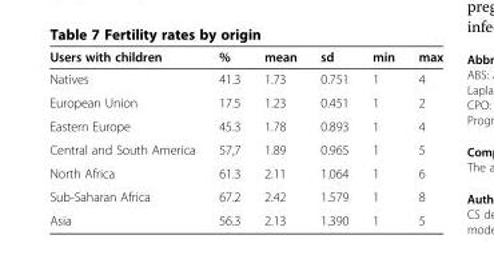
<table><thead><tr><td>Users with children</td><td>%</td><td>mean</td><td>sd</td><td>min</td><td>max</td></tr></thead><tbody><tr><td>Natives</td><td>41.3</td><td>1.73</td><td>0.751</td><td>1</td><td>4</td></tr><tr><td>European Union</td><td>17.5</td><td>1.23</td><td>0.451</td><td>1</td><td>2</td></tr><tr><td>Eastern Europe</td><td>45.3</td><td>1.78</td><td>0.893</td><td>1</td><td>4</td></tr><tr><td>Central and South America</td><td>57,7</td><td>1.89</td><td>0.965</td><td>1</td><td>5</td></tr><tr><td>North Africa</td><td>61.3</td><td>2.11</td><td>1.064</td><td>1</td><td>6</td></tr><tr><td>Sub-Saharan Africa</td><td>67.2</td><td>2.42</td><td>1.579</td><td>1</td><td>8</td></tr><tr><td>Asia</td><td>56.3</td><td>2.13</td><td>1.390</td><td>1</td><td>5</td></tr></tbody></table>